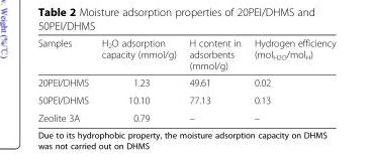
<table><thead><tr><td>Samples</td><td>H<sub>2</sub>O adsorption capacity (mmol/g)</td><td>H content in adsorbents (mmol/g)</td><td>Hydrogen efficiency (mol<sub>H2O</sub>/mol<sub>H</sub>)</td></tr></thead><tbody><tr><td>20PEI/DHMS</td><td>1.23</td><td>49.61</td><td>0.02</td></tr><tr><td>50PEI/DHMS</td><td>10.10</td><td>77.13</td><td>0.13</td></tr><tr><td>Zeolite 3A</td><td>0.79</td><td>–</td><td>–</td></tr></tbody></table>